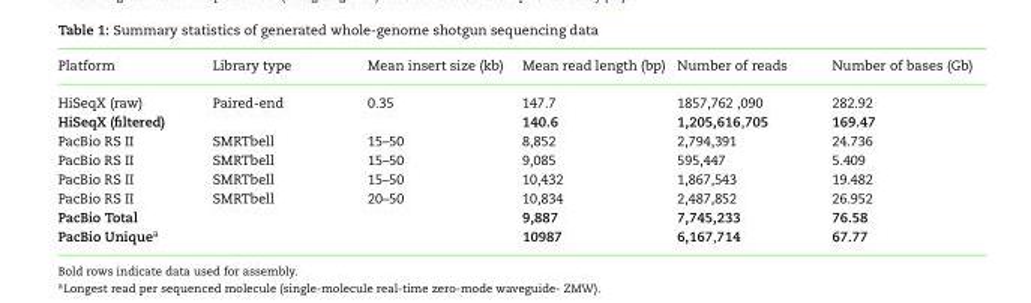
<table><thead><tr><td>Platform</td><td>Library type</td><td>Mean insert size (kb)</td><td>Mean read length (bp)</td><td>Number of reads</td><td>Number of bases (Gb)</td></tr></thead><tbody><tr><td>HiSeqX (raw)</td><td>Paired-end</td><td>0.35</td><td>147.7</td><td>1857,762 ,090</td><td>282.92</td></tr><tr><td>HiSeqX (filtered)</td><td></td><td></td><td>140.6</td><td>1,205,616,705</td><td>169.47</td></tr><tr><td>PacBio RS II</td><td>SMRTbell</td><td>15–50</td><td>8,852</td><td>2,794,391</td><td>24.736</td></tr><tr><td>PacBio RS II</td><td>SMRTbell</td><td>15–50</td><td>9,085</td><td>595,447</td><td>5.409</td></tr><tr><td>PacBio RS II</td><td>SMRTbell</td><td>15–50</td><td>10,432</td><td>1,867,543</td><td>19.482</td></tr><tr><td>PacBio RS II</td><td>SMRTbell</td><td>20–50</td><td>10,834</td><td>2,487,852</td><td>26.952</td></tr><tr><td>PacBio Total</td><td></td><td></td><td>9,887</td><td>7,745,233</td><td>76.58</td></tr><tr><td>PacBio Unique<sup>a</sup></td><td></td><td></td><td>10987</td><td>6,167,714</td><td>67.77</td></tr></tbody></table>